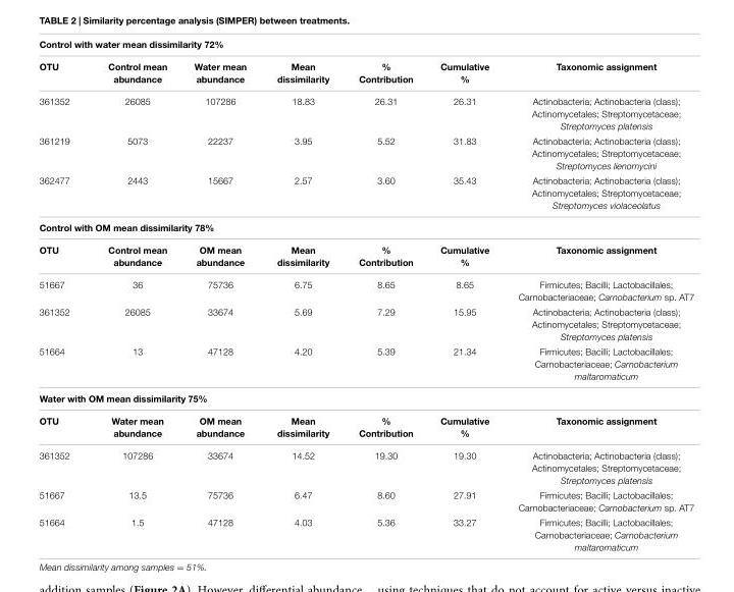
<table><thead><tr><td colspan="7">Control with water mean dissimilarity 72%</td></tr><tr><td>OTU</td><td>Control mean abundance</td><td>Water mean abundance</td><td>Mean dissimilarity</td><td>% Contribution</td><td>Cumulative %</td><td>Taxonomic assignment</td></tr></thead><tbody><tr><td>361352</td><td>26085</td><td>107286</td><td>18.83</td><td>26.31</td><td>26.31</td><td>Actinobacteria; Actinobacteria (class); Actinomycetales; Streptomycetaceae; Streptomyces platensis</td></tr><tr><td>361219</td><td>5073</td><td>22237</td><td>3.95</td><td>5.52</td><td>31.83</td><td>Actinobacteria; Actinobacteria (class); Actinomycetales; Streptomycetaceae; Streptomyces lienomycini</td></tr><tr><td>362477</td><td>2443</td><td>15667</td><td>2.57</td><td>3.60</td><td>35.43</td><td>Actinobacteria; Actinobacteria (class); Actinomycetales; Streptomycetaceae; Streptomyces violaceolatus</td></tr><tr><td colspan="7">Control with OM mean dissimilarity 78%</td></tr><tr><td>OTU</td><td>Control mean abundance</td><td>OM mean abundance</td><td>Mean dissimilarity</td><td>% Contribution</td><td>Cumulative %</td><td>Taxonomic assignment</td></tr><tr><td>51667</td><td>36</td><td>75736</td><td>6.75</td><td>8.65</td><td>8.65</td><td>Firmicutes; Bacilli; Lactobacillales; Carnobacteriaceae; Carnobacterium sp. AT7</td></tr><tr><td>361352</td><td>26085</td><td>33674</td><td>5.69</td><td>7.29</td><td>15.95</td><td>Actinobacteria; Actinobacteria (class); Actinomycetales; Streptomycetaceae; Streptomyces platensis</td></tr><tr><td>51664</td><td>13</td><td>47128</td><td>4.20</td><td>5.39</td><td>21.34</td><td>Firmicutes; Bacilli; Lactobacillales; Carnobacteriaceae; Carnobacterium maltaromaticum</td></tr><tr><td colspan="7">Water with OM mean dissimilarity 75%</td></tr><tr><td>OTU</td><td>Water mean abundance</td><td>OM mean abundance</td><td>Mean dissimilarity</td><td>% Contribution</td><td>Cumulative %</td><td>Taxonomic assignment</td></tr><tr><td>361352</td><td>107286</td><td>33674</td><td>14.52</td><td>19.30</td><td>19.30</td><td>Actinobacteria; Actinobacteria (class); Actinomycetales; Streptomycetaceae; Streptomyces platensis</td></tr><tr><td>51667</td><td>13.5</td><td>75736</td><td>6.47</td><td>8.60</td><td>27.91</td><td>Firmicutes; Bacilli; Lactobacillales; Carnobacteriaceae; Carnobacterium sp. AT7</td></tr><tr><td>51664</td><td>1.5</td><td>47128</td><td>4.03</td><td>5.36</td><td>33.27</td><td>Firmicutes; Bacilli; Lactobacillales; Carnobacteriaceae; Carnobacterium maltaromaticum</td></tr></tbody></table>